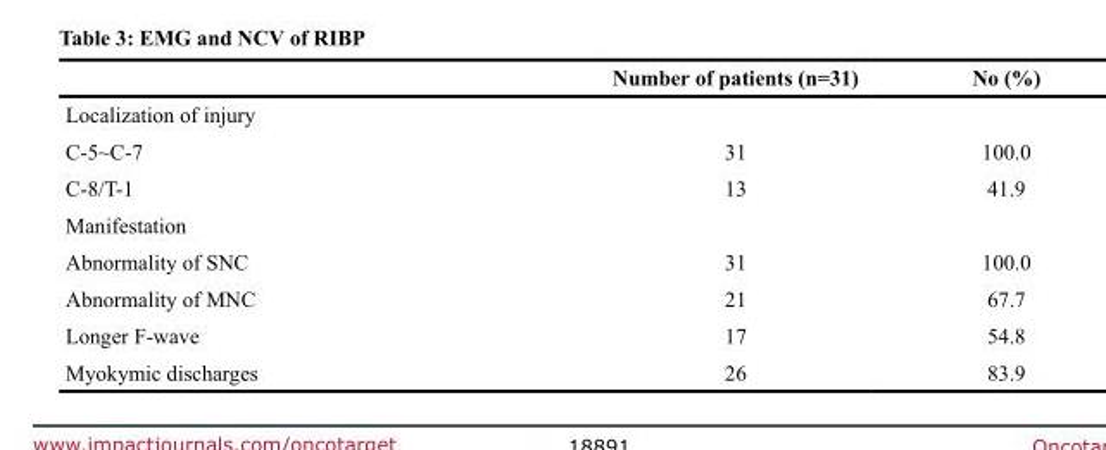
<table><thead><tr><td></td><td>Number of patients (n=31)</td><td>No (%)</td></tr></thead><tbody><tr><td colspan="3">Localization of injury</td></tr><tr><td>C-5~C-7</td><td>31</td><td>100.0</td></tr><tr><td>C-8/T-1</td><td>13</td><td>41.9</td></tr><tr><td colspan="3">Manifestation</td></tr><tr><td>Abnormality of SNC</td><td>31</td><td>100.0</td></tr><tr><td>Abnormality of MNC</td><td>21</td><td>67.7</td></tr><tr><td>Longer F-wave</td><td>17</td><td>54.8</td></tr><tr><td>Myokymic discharges</td><td>26</td><td>83.9</td></tr></tbody></table>